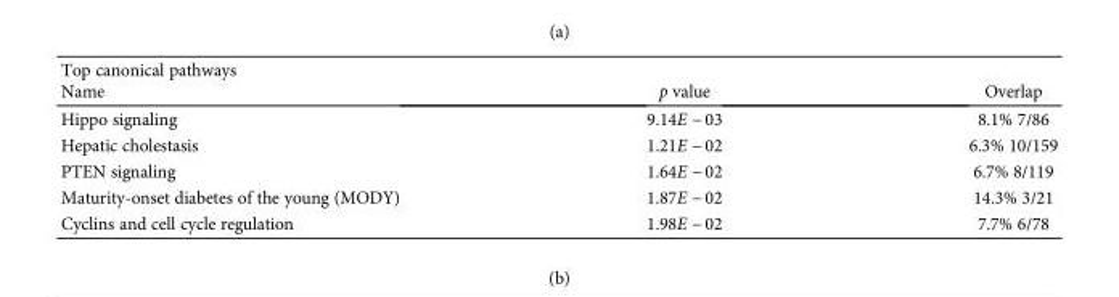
<table><thead><tr><td rowspan="2">Top canonical pathways Name</td><td rowspan="2">p value</td><td rowspan="2">Overlap</td></tr><tr></tr></thead><tbody><tr><td>Hippo signaling</td><td>9.14E − 03</td><td>8.1% 7/86</td></tr><tr><td>Hepatic cholestasis</td><td>1.21E − 02</td><td>6.3% 10/159</td></tr><tr><td>PTEN signaling</td><td>1.64E − 02</td><td>6.7% 8/119</td></tr><tr><td>Maturity-onset diabetes of the young (MODY)</td><td>1.87E − 02</td><td>14.3% 3/21</td></tr><tr><td>Cyclins and cell cycle regulation</td><td>1.98E − 02</td><td>7.7% 6/78</td></tr></tbody></table>